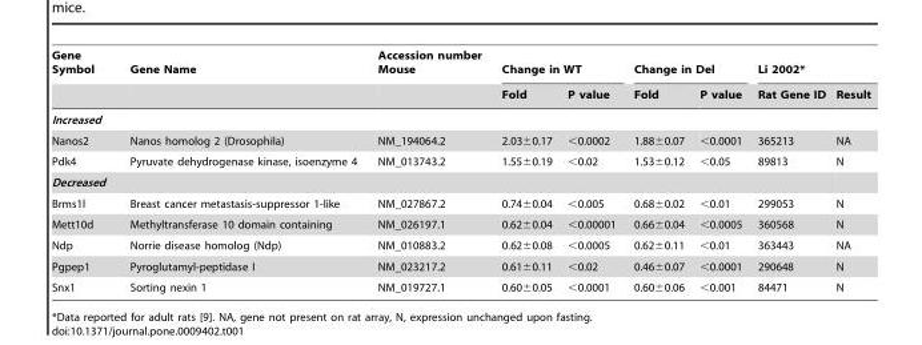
<table><thead><tr><td rowspan="2">Gene Symbol</td><td rowspan="2">Gene Name</td><td rowspan="2">Accession number Mouse</td><td colspan="2">Change in WT</td><td colspan="2">Change in Del</td><td colspan="2">Li 2002*</td></tr><tr><td>Fold</td><td>P value</td><td>Fold</td><td>P value</td><td>Rat Gene ID</td><td>Result</td></tr></thead><tbody><tr><td colspan="9">Increased</td></tr><tr><td>Nanos2</td><td>Nanos homolog 2 (Drosophila)</td><td>NM_194064.2</td><td>2.03±0.17</td><td>&lt;0.0002</td><td>1.88±0.07</td><td>&lt;0.0001</td><td>365213</td><td>NA</td></tr><tr><td>Pdk4</td><td>Pyruvate dehydrogenase kinase, isoenzyme 4</td><td>NM_013743.2</td><td>1.55±0.19</td><td>&lt;0.02</td><td>1.53±0.12</td><td>&lt;0.05</td><td>89813</td><td>N</td></tr><tr><td colspan="9">Decreased</td></tr><tr><td>Brms1l</td><td>Breast cancer metastasis-suppressor 1-like</td><td>NM_027867.2</td><td>0.74±0.04</td><td>&lt;0.005</td><td>0.68±0.02</td><td>&lt;0.01</td><td>299053</td><td>N</td></tr><tr><td>Mett10d</td><td>Methyltransferase 10 domain containing</td><td>NM_026197.1</td><td>0.62±0.04</td><td>&lt;0.00001</td><td>0.66±0.04</td><td>&lt;0.0005</td><td>360568</td><td>N</td></tr><tr><td>Ndp</td><td>Norrie disease homolog (Ndp)</td><td>NM_010883.2</td><td>0.62±0.08</td><td>&lt;0.0005</td><td>0.62±0.11</td><td>&lt;0.01</td><td>363443</td><td>NA</td></tr><tr><td>Pgpep1</td><td>Pyroglutamyl-peptidase I</td><td>NM_023217.2</td><td>0.61±0.11</td><td>&lt;0.02</td><td>0.46±0.07</td><td>&lt;0.0001</td><td>290648</td><td>N</td></tr><tr><td>Snx1</td><td>Sorting nexin 1</td><td>NM_019727.1</td><td>0.60±0.05</td><td>&lt;0.0001</td><td>0.60±0.06</td><td>&lt;0.001</td><td>84471</td><td>N</td></tr></tbody></table>